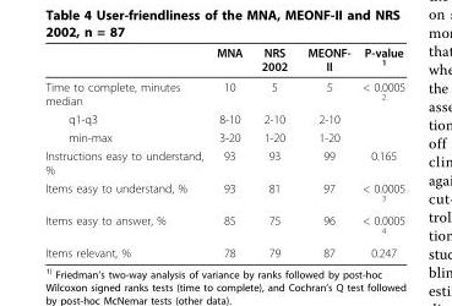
<table><thead><tr><td></td><td>MNA</td><td>NRS 2002</td><td>MEONF- II</td><td>P-value <sup>1</sup></td></tr></thead><tbody><tr><td>Time to complete, minutes median</td><td>10</td><td>5</td><td>5</td><td>&lt; 0.0005 <sup>2</sup></td></tr><tr><td>q1-q3</td><td>8-10</td><td>2-10</td><td>2-10</td><td></td></tr><tr><td>min-max</td><td>3-20</td><td>1-20</td><td>1-20</td><td></td></tr><tr><td>Instructions easy to understand, %</td><td>93</td><td>93</td><td>99</td><td>0.165</td></tr><tr><td>Items easy to understand, %</td><td>93</td><td>81</td><td>97</td><td>&lt; 0.0005 <sup>3</sup></td></tr><tr><td>Items easy to answer, %</td><td>85</td><td>75</td><td>96</td><td>&lt; 0.0005 <sup>4</sup></td></tr><tr><td>Items relevant, %</td><td>78</td><td>79</td><td>87</td><td>0.247</td></tr></tbody></table>